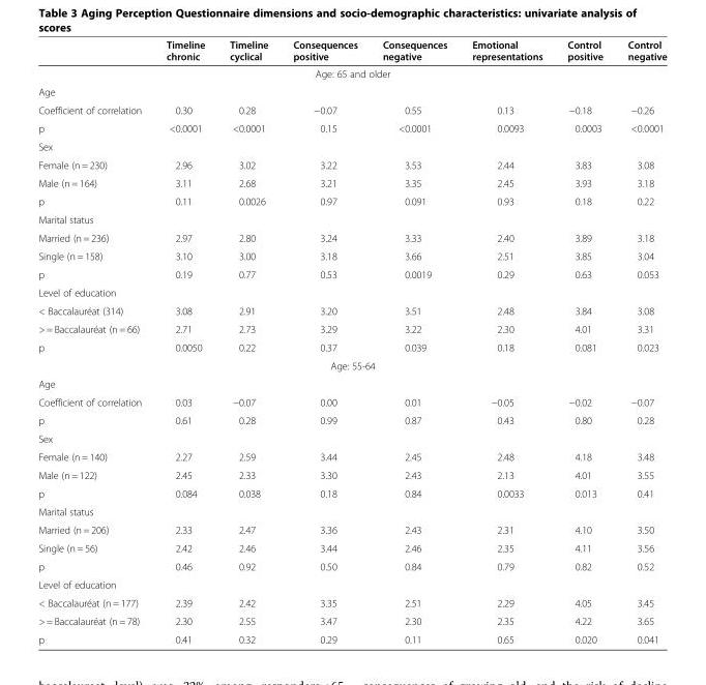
<table><thead><tr><td></td><td>Timeline chronic</td><td>Timeline cyclical</td><td>Consequences positive</td><td>Consequences negative</td><td>Emotional representations</td><td>Control positive</td><td>Control negative</td></tr></thead><tbody><tr><td colspan="8">Age: 65 and older</td></tr><tr><td colspan="8">Age</td></tr><tr><td>Coefficient of correlation</td><td>0.30</td><td>0.28</td><td>−0.07</td><td>0.55</td><td>0.13</td><td>−0.18</td><td>−0.26</td></tr><tr><td>p</td><td>&lt;0.0001</td><td>&lt;0.0001</td><td>0.15</td><td>&lt;0.0001</td><td>0.0093</td><td>0.0003</td><td>&lt;0.0001</td></tr><tr><td colspan="8">Sex</td></tr><tr><td>Female (n = 230)</td><td>2.96</td><td>3.02</td><td>3.22</td><td>3.53</td><td>2.44</td><td>3.83</td><td>3.08</td></tr><tr><td>Male (n = 164)</td><td>3.11</td><td>2.68</td><td>3.21</td><td>3.35</td><td>2.45</td><td>3.93</td><td>3.18</td></tr><tr><td>p</td><td>0.11</td><td>0.0026</td><td>0.97</td><td>0.091</td><td>0.93</td><td>0.18</td><td>0.22</td></tr><tr><td colspan="8">Marital status</td></tr><tr><td>Married (n = 236)</td><td>2.97</td><td>2.80</td><td>3.24</td><td>3.33</td><td>2.40</td><td>3.89</td><td>3.18</td></tr><tr><td>Single (n = 158)</td><td>3.10</td><td>3.00</td><td>3.18</td><td>3.66</td><td>2.51</td><td>3.85</td><td>3.04</td></tr><tr><td>p</td><td>0.19</td><td>0.77</td><td>0.53</td><td>0.0019</td><td>0.29</td><td>0.63</td><td>0.053</td></tr><tr><td colspan="8">Level of education</td></tr><tr><td>&lt; Baccalauréat (314)</td><td>3.08</td><td>2.91</td><td>3.20</td><td>3.51</td><td>2.48</td><td>3.84</td><td>3.08</td></tr><tr><td>&gt; = Baccalauréat (n = 66)</td><td>2.71</td><td>2.73</td><td>3.29</td><td>3.22</td><td>2.30</td><td>4.01</td><td>3.31</td></tr><tr><td>p</td><td>0.0050</td><td>0.22</td><td>0.37</td><td>0.039</td><td>0.18</td><td>0.081</td><td>0.023</td></tr><tr><td colspan="8">Age: 55-64</td></tr><tr><td colspan="8">Age</td></tr><tr><td>Coefficient of correlation</td><td>0.03</td><td>−0.07</td><td>0.00</td><td>0.01</td><td>−0.05</td><td>−0.02</td><td>−0.07</td></tr><tr><td>p</td><td>0.61</td><td>0.28</td><td>0.99</td><td>0.87</td><td>0.43</td><td>0.80</td><td>0.28</td></tr><tr><td colspan="8">Sex</td></tr><tr><td>Female (n = 140)</td><td>2.27</td><td>2.59</td><td>3.44</td><td>2.45</td><td>2.48</td><td>4.18</td><td>3.48</td></tr><tr><td>Male (n = 122)</td><td>2.45</td><td>2.33</td><td>3.30</td><td>2.43</td><td>2.13</td><td>4.01</td><td>3.55</td></tr><tr><td>p</td><td>0.084</td><td>0.038</td><td>0.18</td><td>0.84</td><td>0.0033</td><td>0.013</td><td>0.41</td></tr><tr><td colspan="8">Marital status</td></tr><tr><td>Married (n = 206)</td><td>2.33</td><td>2.47</td><td>3.36</td><td>2.43</td><td>2.31</td><td>4.10</td><td>3.50</td></tr><tr><td>Single (n = 56)</td><td>2.42</td><td>2.46</td><td>3.44</td><td>2.46</td><td>2.35</td><td>4.11</td><td>3.56</td></tr><tr><td>p</td><td>0.46</td><td>0.92</td><td>0.50</td><td>0.84</td><td>0.79</td><td>0.82</td><td>0.52</td></tr><tr><td colspan="8">Level of education</td></tr><tr><td>&lt; Baccalauréat (n = 177)</td><td>2.39</td><td>2.42</td><td>3.35</td><td>2.51</td><td>2.29</td><td>4.05</td><td>3.45</td></tr><tr><td>&gt; = Baccalauréat (n = 78)</td><td>2.30</td><td>2.55</td><td>3.47</td><td>2.30</td><td>2.35</td><td>4.22</td><td>3.65</td></tr><tr><td>p</td><td>0.41</td><td>0.32</td><td>0.29</td><td>0.11</td><td>0.65</td><td>0.020</td><td>0.041</td></tr></tbody></table>